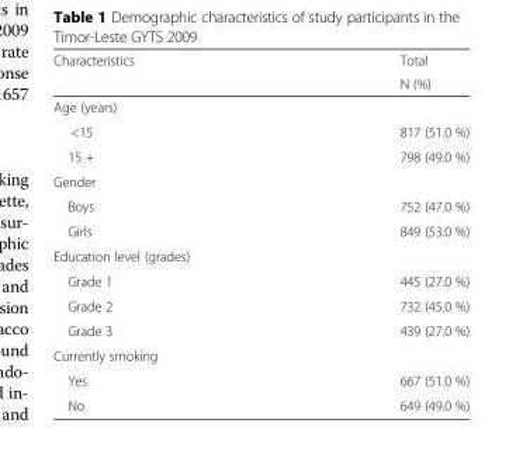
<table><thead><tr><td rowspan="2">Characteristics</td><td rowspan="2">Total N (%)</td></tr><tr></tr></thead><tbody><tr><td colspan="2">Age (years)</td></tr><tr><td>&lt;15</td><td>817 (51.0 %)</td></tr><tr><td>15 +</td><td>798 (49.0 %)</td></tr><tr><td colspan="2">Gender</td></tr><tr><td>Boys</td><td>752 (47.0 %)</td></tr><tr><td>Girls</td><td>849 (53.0 %)</td></tr><tr><td colspan="2">Education level (grades)</td></tr><tr><td>Grade 1</td><td>445 (27.0 %)</td></tr><tr><td>Grade 2</td><td>732 (45.0 %)</td></tr><tr><td>Grade 3</td><td>439 (27.0 %)</td></tr><tr><td colspan="2">Currently smoking</td></tr><tr><td>Yes</td><td>667 (51.0 %)</td></tr><tr><td>No</td><td>649 (49.0 %)</td></tr></tbody></table>